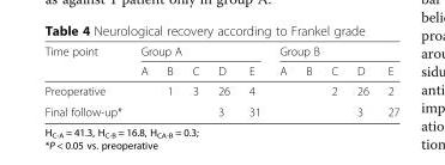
<table><thead><tr><td rowspan="2">Time point</td><td colspan="5">Group A</td><td colspan="5">Group B</td></tr><tr><td>A</td><td>B</td><td>C</td><td>D</td><td>E</td><td>A</td><td>B</td><td>C</td><td>D</td><td>E</td></tr></thead><tbody><tr><td>Preoperative</td><td></td><td>1</td><td>3</td><td>26</td><td>4</td><td></td><td></td><td>2</td><td>26</td><td>2</td></tr><tr><td>Final follow-up*</td><td></td><td></td><td></td><td>3</td><td>31</td><td></td><td></td><td></td><td>3</td><td>27</td></tr></tbody></table>